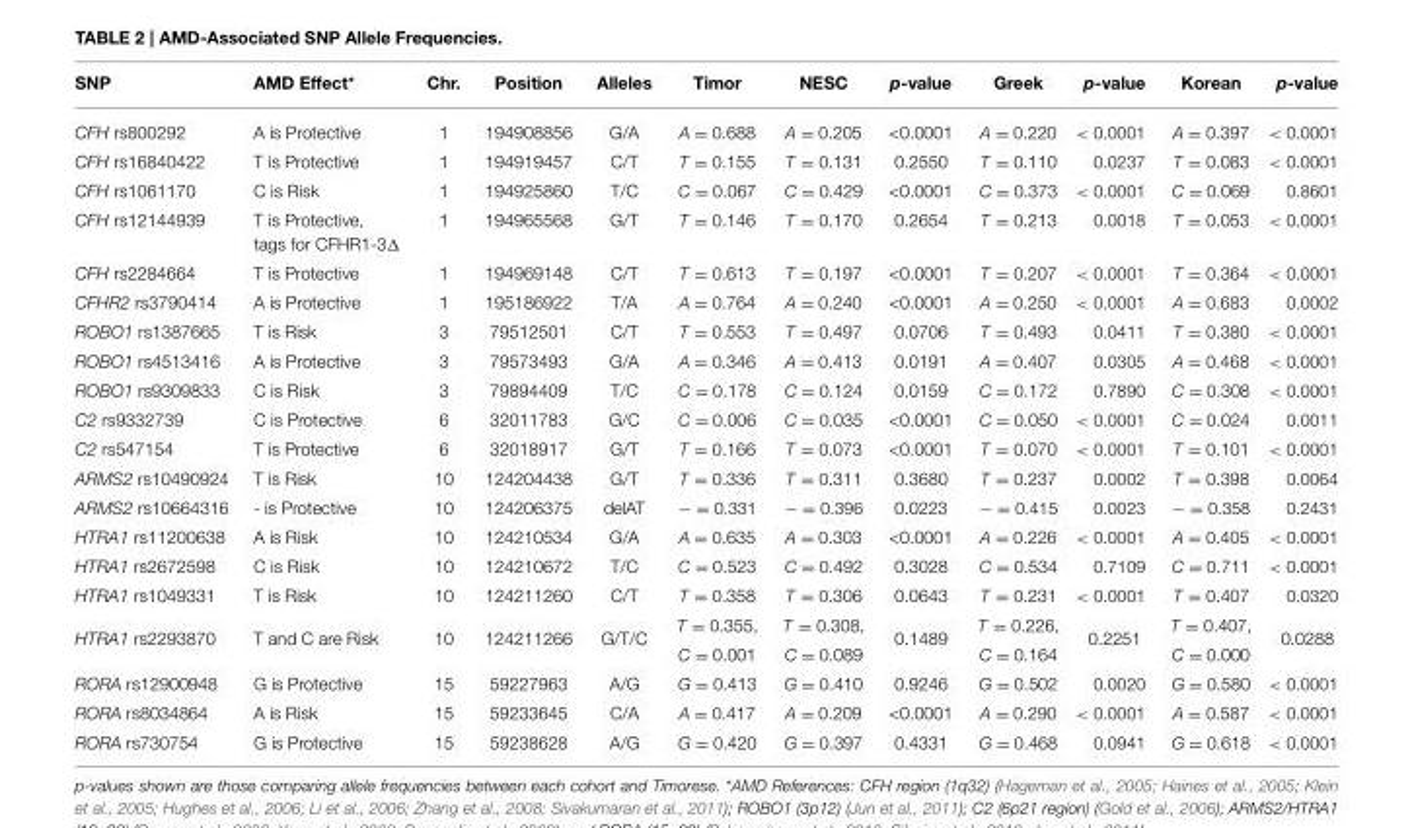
<table><thead><tr><td>SNP</td><td>AMD Effect*</td><td>Chr.</td><td>Position</td><td>Alleles</td><td>Timor</td><td>NESC</td><td>p-value</td><td>Greek</td><td>p-value</td><td>Korean</td><td>p-value</td></tr></thead><tbody><tr><td>CFH rs800292</td><td>A is Protective</td><td>1</td><td>194908856</td><td>G/A</td><td>A = 0.688</td><td>A = 0.205</td><td>&lt;0.0001</td><td>A = 0.220</td><td>&lt; 0.0001</td><td>A = 0.397</td><td>&lt; 0.0001</td></tr><tr><td>CFH rs16840422</td><td>T is Protective</td><td>1</td><td>194919457</td><td>C/T</td><td>T = 0.155</td><td>T = 0.131</td><td>0.2550</td><td>T = 0.110</td><td>0.0237</td><td>T = 0.083</td><td>&lt; 0.0001</td></tr><tr><td>CFH rs1061170</td><td>C is Risk</td><td>1</td><td>194925860</td><td>T/C</td><td>C = 0.067</td><td>C = 0.429</td><td>&lt;0.0001</td><td>C = 0.373</td><td>&lt; 0.0001</td><td>C = 0.069</td><td>0.8601</td></tr><tr><td>CFH rs12144939</td><td>T is Protective, tags for CFHR1-3Δ</td><td>1</td><td>194965568</td><td>G/T</td><td>T = 0.146</td><td>T = 0.170</td><td>0.2654</td><td>T = 0.213</td><td>0.0018</td><td>T = 0.053</td><td>&lt; 0.0001</td></tr><tr><td>CFH rs2284664</td><td>T is Protective</td><td>1</td><td>194969148</td><td>C/T</td><td>T = 0.613</td><td>T = 0.197</td><td>&lt;0.0001</td><td>T = 0.207</td><td>&lt; 0.0001</td><td>T = 0.364</td><td>&lt; 0.0001</td></tr><tr><td>CFHR2 rs3790414</td><td>A is Protective</td><td>1</td><td>195186922</td><td>T/A</td><td>A = 0.764</td><td>A = 0.240</td><td>&lt;0.0001</td><td>A = 0.250</td><td>&lt; 0.0001</td><td>A = 0.683</td><td>0.0002</td></tr><tr><td>ROBO1 rs1387665</td><td>T is Risk</td><td>3</td><td>79512501</td><td>C/T</td><td>T = 0.553</td><td>T = 0.497</td><td>0.0706</td><td>T = 0.493</td><td>0.0411</td><td>T = 0.380</td><td>&lt; 0.0001</td></tr><tr><td>ROBO1 rs4513416</td><td>A is Protective</td><td>3</td><td>79573493</td><td>G/A</td><td>A = 0.346</td><td>A = 0.413</td><td>0.0191</td><td>A = 0.407</td><td>0.0305</td><td>A = 0.468</td><td>&lt; 0.0001</td></tr><tr><td>ROBO1 rs9309833</td><td>C is Risk</td><td>3</td><td>79894409</td><td>T/C</td><td>C = 0.178</td><td>C = 0.124</td><td>0.0159</td><td>C = 0.172</td><td>0.7890</td><td>C = 0.308</td><td>&lt; 0.0001</td></tr><tr><td>C2 rs9332739</td><td>C is Protective</td><td>6</td><td>32011783</td><td>G/C</td><td>C = 0.006</td><td>C = 0.035</td><td>&lt;0.0001</td><td>C = 0.050</td><td>&lt; 0.0001</td><td>C = 0.024</td><td>0.0011</td></tr><tr><td>C2 rs547154</td><td>T is Protective</td><td>6</td><td>32018917</td><td>G/T</td><td>T = 0.166</td><td>T = 0.073</td><td>&lt;0.0001</td><td>T = 0.070</td><td>&lt; 0.0001</td><td>T = 0.101</td><td>&lt; 0.0001</td></tr><tr><td>ARMS2 rs10490924</td><td>T is Risk</td><td>10</td><td>124204438</td><td>G/T</td><td>T = 0.336</td><td>T = 0.311</td><td>0.3680</td><td>T = 0.237</td><td>0.0002</td><td>T = 0.398</td><td>0.0064</td></tr><tr><td>ARMS2 rs10664316</td><td>- is Protective</td><td>10</td><td>124206375</td><td>delAT</td><td>− = 0.331</td><td>− = 0.396</td><td>0.0223</td><td>− = 0.415</td><td>0.0023</td><td>− = 0.358</td><td>0.2431</td></tr><tr><td>HTRA1 rs11200638</td><td>A is Risk</td><td>10</td><td>124210534</td><td>G/A</td><td>A = 0.635</td><td>A = 0.303</td><td>&lt;0.0001</td><td>A = 0.226</td><td>&lt; 0.0001</td><td>A = 0.405</td><td>&lt; 0.0001</td></tr><tr><td>HTRA1 rs2672598</td><td>C is Risk</td><td>10</td><td>124210672</td><td>T/C</td><td>C = 0.523</td><td>C = 0.492</td><td>0.3028</td><td>C = 0.534</td><td>0.7109</td><td>C = 0.711</td><td>&lt; 0.0001</td></tr><tr><td>HTRA1 rs1049331</td><td>T is Risk</td><td>10</td><td>124211260</td><td>C/T</td><td>T = 0.358</td><td>T = 0.306</td><td>0.0643</td><td>T = 0.231</td><td>&lt; 0.0001</td><td>T = 0.407</td><td>0.0320</td></tr><tr><td>HTRA1 rs2293870</td><td>T and C are Risk</td><td>10</td><td>124211266</td><td>G/T/C</td><td>T = 0.355, C = 0.001</td><td>T = 0.308, C = 0.089</td><td>0.1489</td><td>T = 0.226, C = 0.164</td><td>0.2251</td><td>T = 0.407, C = 0.000</td><td>0.0288</td></tr><tr><td>RORA rs12900948</td><td>G is Protective</td><td>15</td><td>59227963</td><td>A/G</td><td>G = 0.413</td><td>G = 0.410</td><td>0.9246</td><td>G = 0.502</td><td>0.0020</td><td>G = 0.580</td><td>&lt; 0.0001</td></tr><tr><td>RORA rs8034864</td><td>A is Risk</td><td>15</td><td>59233645</td><td>C/A</td><td>A = 0.417</td><td>A = 0.209</td><td>&lt;0.0001</td><td>A = 0.290</td><td>&lt; 0.0001</td><td>A = 0.587</td><td>&lt; 0.0001</td></tr><tr><td>RORA rs730754</td><td>G is Protective</td><td>15</td><td>59238628</td><td>A/G</td><td>G = 0.420</td><td>G = 0.397</td><td>0.4331</td><td>G = 0.468</td><td>0.0941</td><td>G = 0.618</td><td>&lt; 0.0001</td></tr></tbody></table>